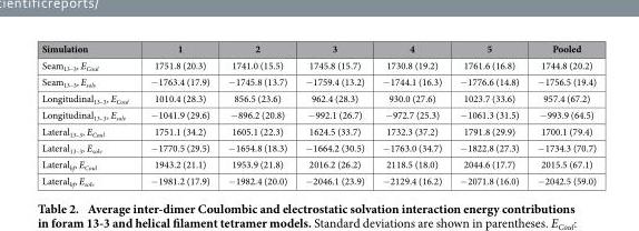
<table><thead><tr><td>Simulation</td><td>1</td><td>2</td><td>3</td><td>4</td><td>5</td><td>Pooled</td></tr></thead><tbody><tr><td>Seam<sub>13–3</sub>, E<sub>Coul</sub></td><td>1751.8 (20.3)</td><td>1741.0 (15.5)</td><td>1745.8 (15.7)</td><td>1730.8 (19.2)</td><td>1761.6 (16.8)</td><td>1744.8 (20.2)</td></tr><tr><td>Seam<sub>13–3</sub>, E<sub>solv</sub></td><td>− 1763.4 (17.9)</td><td>− 1745.8 (13.7)</td><td>− 1759.4 (13.2)</td><td>− 1744.1 (16.3)</td><td>− 1776.6 (14.8)</td><td>− 1756.5 (19.4)</td></tr><tr><td>Longitudinal<sub>13–3</sub>, E<sub>Coul</sub></td><td>1010.4 (28.3)</td><td>856.5 (23.6)</td><td>962.4 (28.3)</td><td>930.0 (27.6)</td><td>1023.7 (33.6)</td><td>957.4 (67.2)</td></tr><tr><td>Longitudinal<sub>13–3</sub>, E<sub>solv</sub></td><td>− 1041.9 (29.6)</td><td>− 896.2 (20.8)</td><td>− 992.1 (26.7)</td><td>− 972.7 (25.3)</td><td>− 1061.3 (31.5)</td><td>− 993.9 (64.5)</td></tr><tr><td>Lateral<sub>13–3</sub>, E<sub>Coul</sub></td><td>1751.1 (34.2)</td><td>1605.1 (22.3)</td><td>1624.5 (33.7)</td><td>1732.3 (37.2)</td><td>1791.8 (29.9)</td><td>1700.1 (79.4)</td></tr><tr><td>Lateral<sub>13–3</sub>, E<sub>solv</sub></td><td>− 1770.5 (29.5)</td><td>− 1654.8 (18.3)</td><td>− 1664.2 (30.5)</td><td>− 1763.0 (34.7)</td><td>− 1822.8 (27.3)</td><td>− 1734.3 (70.7)</td></tr><tr><td>Lateral<sub>hf</sub>, E<sub>Coul</sub></td><td>1943.2 (21.1)</td><td>1953.9 (21.8)</td><td>2016.2 (26.2)</td><td>2118.5 (18.0)</td><td>2044.6 (17.7)</td><td>2015.5 (67.1)</td></tr><tr><td>Lateral<sub>hf</sub>, E<sub>solv</sub></td><td>− 1981.2 (17.9)</td><td>− 1982.4 (20.0)</td><td>− 2046.1 (23.9)</td><td>− 2129.4 (16.2)</td><td>− 2071.8 (16.0)</td><td>− 2042.5 (59.0)</td></tr></tbody></table>